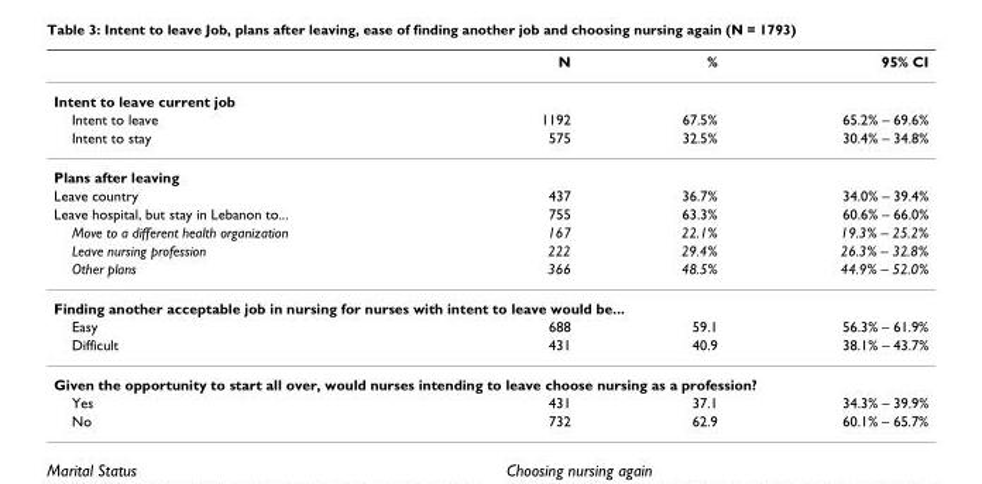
<table><thead><tr><td></td><td>N</td><td>%</td><td>95% CI</td></tr></thead><tbody><tr><td colspan="4">Intent to leave current job</td></tr><tr><td>Intent to leave</td><td>1192</td><td>67.5%</td><td>65.2% – 69.6%</td></tr><tr><td>Intent to stay</td><td>575</td><td>32.5%</td><td>30.4% – 34.8%</td></tr><tr><td colspan="4">Plans after leaving</td></tr><tr><td>Leave country</td><td>437</td><td>36.7%</td><td>34.0% – 39.4%</td></tr><tr><td>Leave hospital, but stay in Lebanon to...</td><td>755</td><td>63.3%</td><td>60.6% – 66.0%</td></tr><tr><td>Move to a different health organization</td><td>167</td><td>22.1%</td><td>19.3% – 25.2%</td></tr><tr><td>Leave nursing profession</td><td>222</td><td>29.4%</td><td>26.3% – 32.8%</td></tr><tr><td>Other plans</td><td>366</td><td>48.5%</td><td>44.9% – 52.0%</td></tr><tr><td colspan="4">Finding another acceptable job in nursing for nurses with intent to leave would be...</td></tr><tr><td>Easy</td><td>688</td><td>59.1</td><td>56.3% – 61.9%</td></tr><tr><td>Difficult</td><td>431</td><td>40.9</td><td>38.1% – 43.7%</td></tr><tr><td colspan="4">Given the opportunity to start all over, would nurses intending to leave choose nursing as a profession?</td></tr><tr><td>Yes</td><td>431</td><td>37.1</td><td>34.3% – 39.9%</td></tr><tr><td>No</td><td>732</td><td>62.9</td><td>60.1% – 65.7%</td></tr></tbody></table>